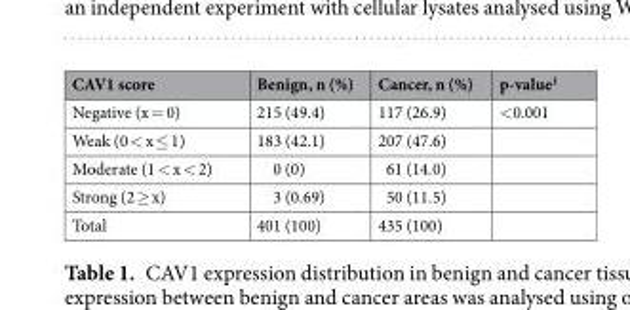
<table><thead><tr><td>CAV1 score</td><td>Benign, n (%)</td><td>Cancer, n (%)</td><td>p-value<sup>1</sup></td></tr></thead><tbody><tr><td>Negative (x = 0)</td><td>215 (49.4)</td><td>117 (26.9)</td><td>&lt;0.001</td></tr><tr><td>Weak (0 &lt; x ≤ 1)</td><td>183 (42.1)</td><td>207 (47.6)</td><td></td></tr><tr><td>Moderate (1 &lt; x &lt; 2)</td><td>0 (0)</td><td>61 (14.0)</td><td></td></tr><tr><td>Strong (2 ≥ x)</td><td>3 (0.69)</td><td>50 (11.5)</td><td></td></tr><tr><td>Total</td><td>401 (100)</td><td>435 (100)</td><td></td></tr></tbody></table>